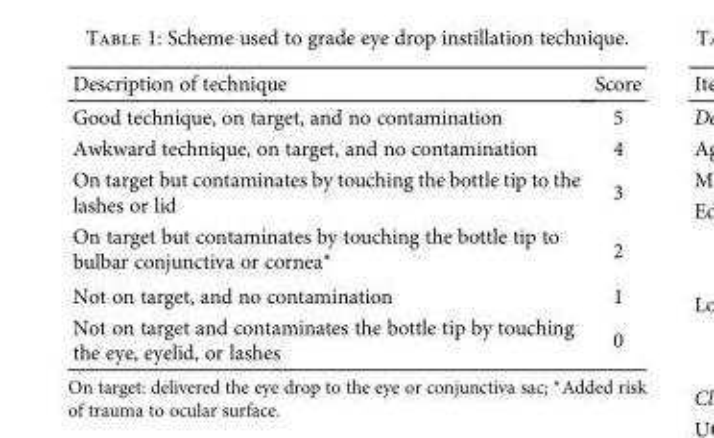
<table><thead><tr><td>Description of technique</td><td>Score</td></tr></thead><tbody><tr><td>Good technique, on target, and no contamination</td><td>5</td></tr><tr><td>Awkward technique, on target, and no contamination</td><td>4</td></tr><tr><td>On target but contaminates by touching the bottle tip to the lashes or lid</td><td>3</td></tr><tr><td>On target but contaminates by touching the bottle tip to bulbar conjunctiva or cornea∗</td><td>2</td></tr><tr><td>Not on target, and no contamination</td><td>1</td></tr><tr><td>Not on target and contaminates the bottle tip by touching the eye, eyelid, or lashes</td><td>0</td></tr></tbody></table>